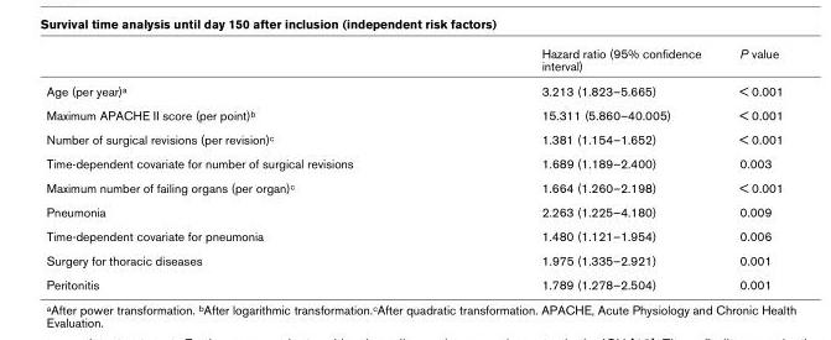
<table><thead><tr><td></td><td>Hazard ratio (95% confidence interval)</td><td>P value</td></tr></thead><tbody><tr><td>Age (per year)<sup>a</sup></td><td>3.213 (1.823–5.665)</td><td>&lt; 0.001</td></tr><tr><td>Maximum APACHE II score (per point)<sup>b</sup></td><td>15.311 (5.860–40.005)</td><td>&lt; 0.001</td></tr><tr><td>Number of surgical revisions (per revision)<sup>c</sup></td><td>1.381 (1.154–1.652)</td><td>&lt; 0.001</td></tr><tr><td>Time-dependent covariate for number of surgical revisions</td><td>1.689 (1.189–2.400)</td><td>0.003</td></tr><tr><td>Maximum number of failing organs (per organ)<sup>c</sup></td><td>1.664 (1.260–2.198)</td><td>&lt; 0.001</td></tr><tr><td>Pneumonia</td><td>2.263 (1.225–4.180)</td><td>0.009</td></tr><tr><td>Time-dependent covariate for pneumonia</td><td>1.480 (1.121–1.954)</td><td>0.006</td></tr><tr><td>Surgery for thoracic diseases</td><td>1.975 (1.335–2.921)</td><td>0.001</td></tr><tr><td>Peritonitis</td><td>1.789 (1.278–2.504)</td><td>0.001</td></tr></tbody></table>